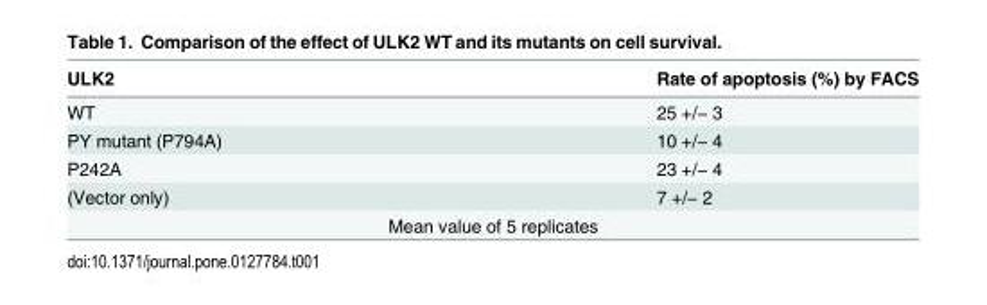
<table><thead><tr><td>ULK2</td><td>Rate of apoptosis (%) by FACS</td></tr></thead><tbody><tr><td>WT</td><td>25 +/− 3</td></tr><tr><td>PY mutant (P794A)</td><td>10 +/− 4</td></tr><tr><td>P242A</td><td>23 +/− 4</td></tr><tr><td>(Vector only)</td><td>7 +/− 2</td></tr><tr><td colspan="2">Mean value of 5 replicates</td></tr></tbody></table>